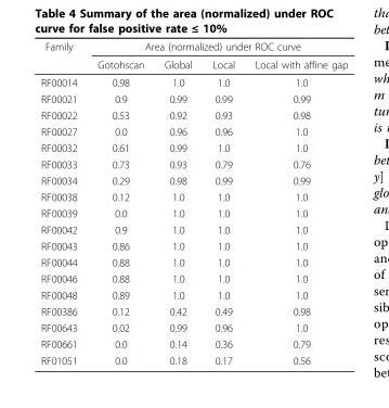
<table><thead><tr><td rowspan="2">Family</td><td colspan="4">Area (normalized) under ROC curve</td></tr><tr><td>Gotohscan</td><td>Global</td><td>Local</td><td>Local with affine gap</td></tr></thead><tbody><tr><td>RF00014</td><td>0.98</td><td>1.0</td><td>1.0</td><td>1.0</td></tr><tr><td>RF00021</td><td>0.9</td><td>0.99</td><td>0.99</td><td>0.99</td></tr><tr><td>RF00022</td><td>0.53</td><td>0.92</td><td>0.93</td><td>0.98</td></tr><tr><td>RF00027</td><td>0.0</td><td>0.96</td><td>0.96</td><td>1.0</td></tr><tr><td>RF00032</td><td>0.61</td><td>0.99</td><td>1.0</td><td>1.0</td></tr><tr><td>RF00033</td><td>0.73</td><td>0.93</td><td>0.79</td><td>0.76</td></tr><tr><td>RF00034</td><td>0.29</td><td>0.98</td><td>0.99</td><td>0.99</td></tr><tr><td>RF00038</td><td>0.12</td><td>1.0</td><td>1.0</td><td>1.0</td></tr><tr><td>RF00039</td><td>0.0</td><td>1.0</td><td>1.0</td><td>1.0</td></tr><tr><td>RF00042</td><td>0.9</td><td>1.0</td><td>1.0</td><td>1.0</td></tr><tr><td>RF00043</td><td>0.86</td><td>1.0</td><td>1.0</td><td>1.0</td></tr><tr><td>RF00044</td><td>0.88</td><td>1.0</td><td>1.0</td><td>1.0</td></tr><tr><td>RF00046</td><td>0.88</td><td>1.0</td><td>1.0</td><td>1.0</td></tr><tr><td>RF00048</td><td>0.89</td><td>1.0</td><td>1.0</td><td>1.0</td></tr><tr><td>RF00386</td><td>0.12</td><td>0.42</td><td>0.49</td><td>0.98</td></tr><tr><td>RF00643</td><td>0.02</td><td>0.99</td><td>0.96</td><td>1.0</td></tr><tr><td>RF00661</td><td>0.0</td><td>0.14</td><td>0.36</td><td>0.79</td></tr><tr><td>RF01051</td><td>0.0</td><td>0.18</td><td>0.17</td><td>0.56</td></tr></tbody></table>